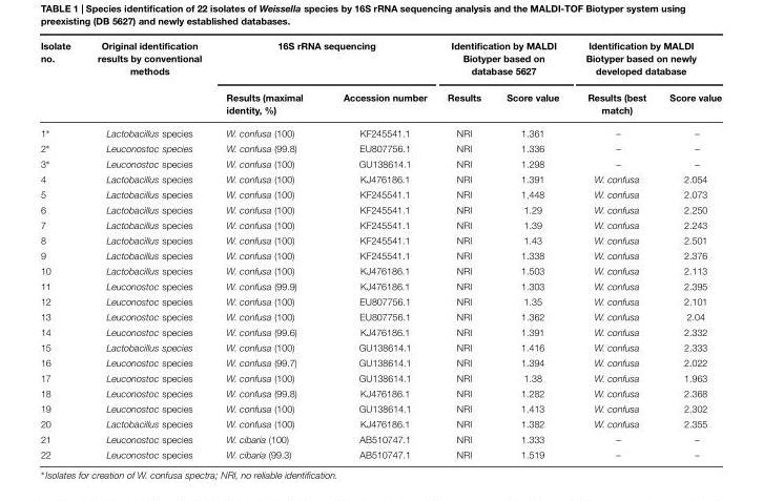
<table><thead><tr><td rowspan="2">Isolate no.</td><td rowspan="2">Original identification results by conventional methods</td><td colspan="2">16S rRNA sequencing</td><td colspan="2">Identification by MALDI Biotyper based on database 5627</td><td colspan="2">Identification by MALDI Biotyper based on newly developed database</td></tr><tr><td>Results (maximal identity, %)</td><td>Accession number</td><td>Results</td><td>Score value</td><td>Results (best match)</td><td>Score value</td></tr></thead><tbody><tr><td>1∗</td><td>Lactobacillus species</td><td>W. confusa (100)</td><td>KF245541.1</td><td>NRI</td><td>1.361</td><td>–</td><td>–</td></tr><tr><td>2∗</td><td>Leuconostoc species</td><td>W. confusa (99.8)</td><td>EU807756.1</td><td>NRI</td><td>1.336</td><td>–</td><td>–</td></tr><tr><td>3∗</td><td>Leuconostoc species</td><td>W. confusa (100)</td><td>GU138614.1</td><td>NRI</td><td>1.298</td><td>–</td><td>–</td></tr><tr><td>4</td><td>Lactobacillus species</td><td>W. confusa (100)</td><td>KJ476186.1</td><td>NRI</td><td>1.391</td><td>W. confusa</td><td>2.054</td></tr><tr><td>5</td><td>Lactobacillus species</td><td>W. confusa (100)</td><td>KF245541.1</td><td>NRI</td><td>1.448</td><td>W. confusa</td><td>2.073</td></tr><tr><td>6</td><td>Lactobacillus species</td><td>W. confusa (100)</td><td>KF245541.1</td><td>NRI</td><td>1.29</td><td>W. confusa</td><td>2.250</td></tr><tr><td>7</td><td>Lactobacillus species</td><td>W. confusa (100)</td><td>KF245541.1</td><td>NRI</td><td>1.39</td><td>W. confusa</td><td>2.243</td></tr><tr><td>8</td><td>Lactobacillus species</td><td>W. confusa (100)</td><td>KF245541.1</td><td>NRI</td><td>1.43</td><td>W. confusa</td><td>2.501</td></tr><tr><td>9</td><td>Lactobacillus species</td><td>W. confusa (100)</td><td>KF245541.1</td><td>NRI</td><td>1.338</td><td>W. confusa</td><td>2.376</td></tr><tr><td>10</td><td>Lactobacillus species</td><td>W. confusa (100)</td><td>KJ476186.1</td><td>NRI</td><td>1.503</td><td>W. confusa</td><td>2.113</td></tr><tr><td>11</td><td>Leuconostoc species</td><td>W. confusa (99.9)</td><td>KJ476186.1</td><td>NRI</td><td>1.303</td><td>W. confusa</td><td>2.395</td></tr><tr><td>12</td><td>Leuconostoc species</td><td>W. confusa (100)</td><td>EU807756.1</td><td>NRI</td><td>1.35</td><td>W. confusa</td><td>2.101</td></tr><tr><td>13</td><td>Leuconostoc species</td><td>W. confusa (100)</td><td>EU807756.1</td><td>NRI</td><td>1.362</td><td>W. confusa</td><td>2.04</td></tr><tr><td>14</td><td>Leuconostoc species</td><td>W. confusa (99.6)</td><td>KJ476186.1</td><td>NRI</td><td>1.391</td><td>W. confusa</td><td>2.332</td></tr><tr><td>15</td><td>Lactobacillus species</td><td>W. confusa (100)</td><td>GU138614.1</td><td>NRI</td><td>1.416</td><td>W. confusa</td><td>2.333</td></tr><tr><td>16</td><td>Leuconostoc species</td><td>W. confusa (99.7)</td><td>GU138614.1</td><td>NRI</td><td>1.394</td><td>W. confusa</td><td>2.022</td></tr><tr><td>17</td><td>Leuconostoc species</td><td>W. confusa (100)</td><td>GU138614.1</td><td>NRI</td><td>1.38</td><td>W. confusa</td><td>1.963</td></tr><tr><td>18</td><td>Leuconostoc species</td><td>W. confusa (99.8)</td><td>KJ476186.1</td><td>NRI</td><td>1.282</td><td>W. confusa</td><td>2.368</td></tr><tr><td>19</td><td>Leuconostoc species</td><td>W. confusa (100)</td><td>GU138614.1</td><td>NRI</td><td>1.413</td><td>W. confusa</td><td>2.302</td></tr><tr><td>20</td><td>Lactobacillus species</td><td>W. confusa (100)</td><td>KJ476186.1</td><td>NRI</td><td>1.382</td><td>W. confusa</td><td>2.355</td></tr><tr><td>21</td><td>Leuconostoc species</td><td>W. cibaria (100)</td><td>AB510747.1</td><td>NRI</td><td>1.333</td><td>–</td><td>–</td></tr><tr><td>22</td><td>Leuconostoc species</td><td>W. cibaria (99.3)</td><td>AB510747.1</td><td>NRI</td><td>1.519</td><td>–</td><td>–</td></tr></tbody></table>